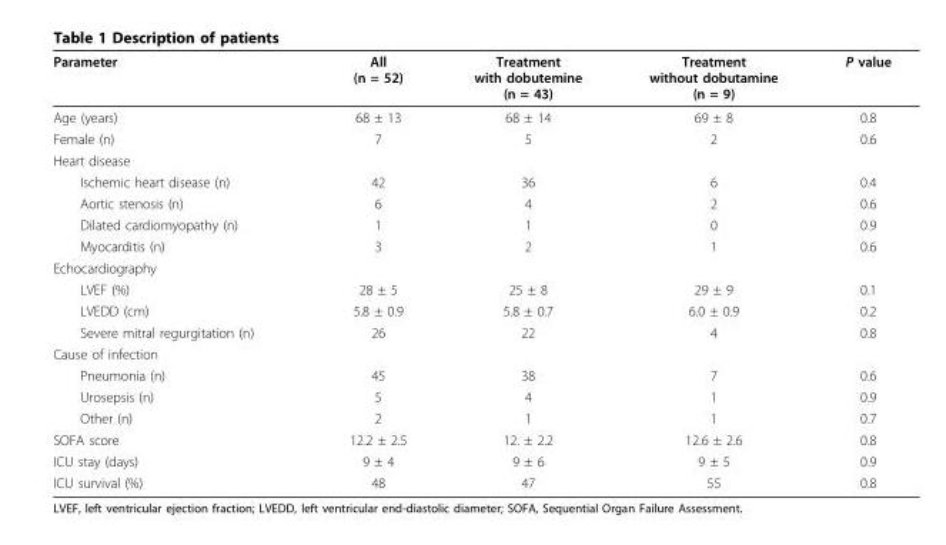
<table><thead><tr><td>Parameter</td><td>All (n = 52)</td><td>Treatment with dobutemine (n = 43)</td><td>Treatment without dobutamine (n = 9)</td><td>P value</td></tr></thead><tbody><tr><td>Age (years)</td><td>68 ± 13</td><td>68 ± 14</td><td>69 ± 8</td><td>0.8</td></tr><tr><td>Female (n)</td><td>7</td><td>5</td><td>2</td><td>0.6</td></tr><tr><td colspan="5">Heart disease</td></tr><tr><td>Ischemic heart disease (n)</td><td>42</td><td>36</td><td>6</td><td>0.4</td></tr><tr><td>Aortic stenosis (n)</td><td>6</td><td>4</td><td>2</td><td>0.6</td></tr><tr><td>Dilated cardiomyopathy (n)</td><td>1</td><td>1</td><td>0</td><td>0.9</td></tr><tr><td>Myocarditis (n)</td><td>3</td><td>2</td><td>1</td><td>0.6</td></tr><tr><td colspan="5">Echocardiography</td></tr><tr><td>LVEF (%)</td><td>28 ± 5</td><td>25 ± 8</td><td>29 ± 9</td><td>0.1</td></tr><tr><td>LVEDD (cm)</td><td>5.8 ± 0.9</td><td>5.8 ± 0.7</td><td>6.0 ± 0.9</td><td>0.2</td></tr><tr><td>Severe mitral regurgitation (n)</td><td>26</td><td>22</td><td>4</td><td>0.8</td></tr><tr><td colspan="5">Cause of infection</td></tr><tr><td>Pneumonia (n)</td><td>45</td><td>38</td><td>7</td><td>0.6</td></tr><tr><td>Urosepsis (n)</td><td>5</td><td>4</td><td>1</td><td>0.9</td></tr><tr><td>Other (n)</td><td>2</td><td>1</td><td>1</td><td>0.7</td></tr><tr><td>SOFA score</td><td>12.2 ± 2.5</td><td>12. ± 2.2</td><td>12.6 ± 2.6</td><td>0.8</td></tr><tr><td>ICU stay (days)</td><td>9 ± 4</td><td>9 ± 6</td><td>9 ± 5</td><td>0.9</td></tr><tr><td>ICU survival (%)</td><td>48</td><td>47</td><td>55</td><td>0.8</td></tr></tbody></table>